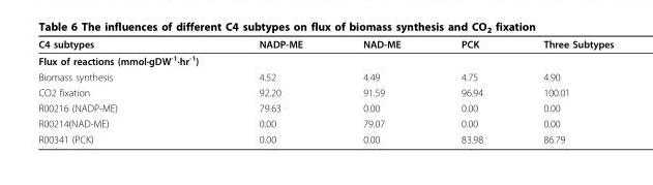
<table><thead><tr><td>C4 subtypes</td><td>NADP-ME</td><td>NAD-ME</td><td>PCK</td><td>Three Subtypes</td></tr></thead><tbody><tr><td colspan="5">Flux of reactions (mmol·gDW<sup>-1</sup>·hr<sup>-1</sup>)</td></tr><tr><td>Biomass synthesis</td><td>4.52</td><td>4.49</td><td>4.75</td><td>4.90</td></tr><tr><td>CO2 fixation</td><td>92.20</td><td>91.59</td><td>96.94</td><td>100.01</td></tr><tr><td>R00216 (NADP-ME)</td><td>79.63</td><td>0.00</td><td>0.00</td><td>0.00</td></tr><tr><td>R00214(NAD-ME)</td><td>0.00</td><td>79.07</td><td>0.00</td><td>0.00</td></tr><tr><td>R00341 (PCK)</td><td>0.00</td><td>0.00</td><td>83.98</td><td>86.79</td></tr></tbody></table>